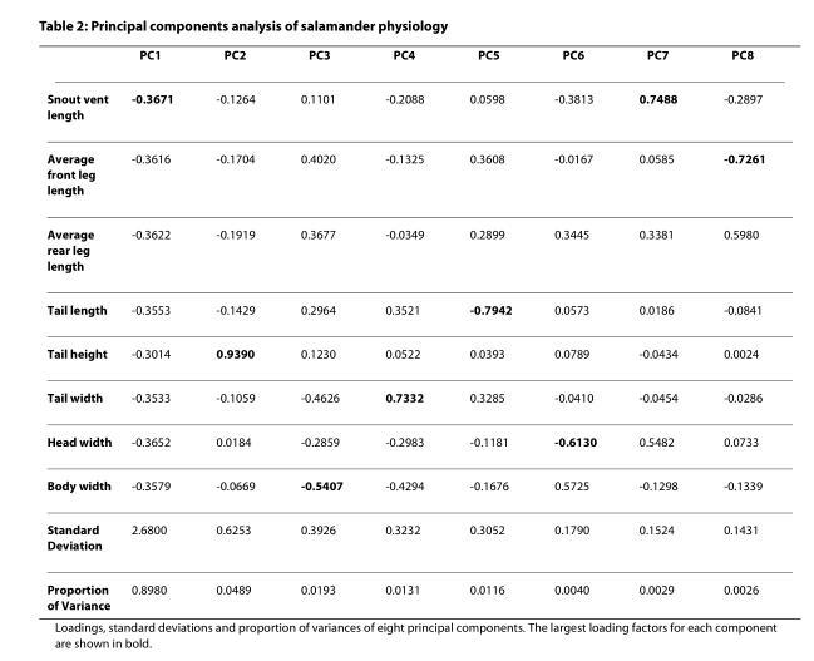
<table><thead><tr><td></td><td>PC1</td><td>PC2</td><td>PC3</td><td>PC4</td><td>PC5</td><td>PC6</td><td>PC7</td><td>PC8</td></tr></thead><tbody><tr><td>Snout vent length</td><td>-0.3671</td><td>-0.1264</td><td>0.1101</td><td>-0.2088</td><td>0.0598</td><td>-0.3813</td><td>0.7488</td><td>-0.2897</td></tr><tr><td>Average front leg length</td><td>-0.3616</td><td>-0.1704</td><td>0.4020</td><td>-0.1325</td><td>0.3608</td><td>-0.0167</td><td>0.0585</td><td>-0.7261</td></tr><tr><td>Average rear leg length</td><td>-0.3622</td><td>-0.1919</td><td>0.3677</td><td>-0.0349</td><td>0.2899</td><td>0.3445</td><td>0.3381</td><td>0.5980</td></tr><tr><td>Tail length</td><td>-0.3553</td><td>-0.1429</td><td>0.2964</td><td>0.3521</td><td>-0.7942</td><td>0.0573</td><td>0.0186</td><td>-0.0841</td></tr><tr><td>Tail height</td><td>-0.3014</td><td>0.9390</td><td>0.1230</td><td>0.0522</td><td>0.0393</td><td>0.0789</td><td>-0.0434</td><td>0.0024</td></tr><tr><td>Tail width</td><td>-0.3533</td><td>-0.1059</td><td>-0.4626</td><td>0.7332</td><td>0.3285</td><td>-0.0410</td><td>-0.0454</td><td>-0.0286</td></tr><tr><td>Head width</td><td>-0.3652</td><td>0.0184</td><td>-0.2859</td><td>-0.2983</td><td>-0.1181</td><td>-0.6130</td><td>0.5482</td><td>0.0733</td></tr><tr><td>Body width</td><td>-0.3579</td><td>-0.0669</td><td>-0.5407</td><td>-0.4294</td><td>-0.1676</td><td>0.5725</td><td>-0.1298</td><td>-0.1339</td></tr><tr><td>Standard Deviation</td><td>2.6800</td><td>0.6253</td><td>0.3926</td><td>0.3232</td><td>0.3052</td><td>0.1790</td><td>0.1524</td><td>0.1431</td></tr><tr><td>Proportion of Variance</td><td>0.8980</td><td>0.0489</td><td>0.0193</td><td>0.0131</td><td>0.0116</td><td>0.0040</td><td>0.0029</td><td>0.0026</td></tr></tbody></table>